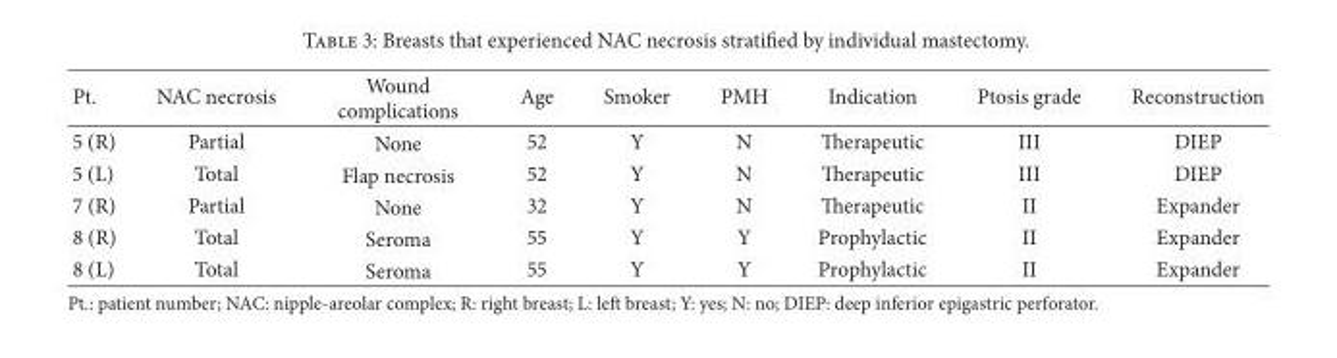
<table><thead><tr><td>Pt.</td><td>NAC necrosis</td><td>Wound complications</td><td>Age</td><td>Smoker</td><td>PMH</td><td>Indication</td><td>Ptosis grade</td><td>Reconstruction</td></tr></thead><tbody><tr><td>5 (R)</td><td>Partial</td><td>None</td><td>52</td><td>Y</td><td>N</td><td>Therapeutic</td><td>III</td><td>DIEP</td></tr><tr><td>5 (L)</td><td>Total</td><td>Flap necrosis</td><td>52</td><td>Y</td><td>N</td><td>Therapeutic</td><td>III</td><td>DIEP</td></tr><tr><td>7 (R)</td><td>Partial</td><td>None</td><td>32</td><td>Y</td><td>N</td><td>Therapeutic</td><td>II</td><td>Expander</td></tr><tr><td>8 (R)</td><td>Total</td><td>Seroma</td><td>55</td><td>Y</td><td>Y</td><td>Prophylactic</td><td>II</td><td>Expander</td></tr><tr><td>8 (L)</td><td>Total</td><td>Seroma</td><td>55</td><td>Y</td><td>Y</td><td>Prophylactic</td><td>II</td><td>Expander</td></tr></tbody></table>